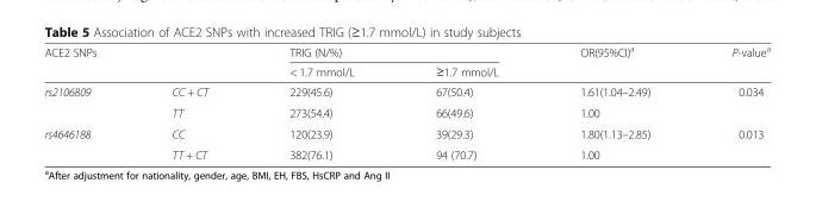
<table><thead><tr><td rowspan="2" colspan="2">ACE2 SNPs</td><td colspan="2">TRIG (N/%)</td><td rowspan="3">OR(95%CI)<sup>a</sup> 1.61(1.04–2.49)</td><td rowspan="3">P-value<sup>a</sup> 0.034</td></tr><tr><td rowspan="2">&lt; 1.7 mmol/L 229(45.6)</td><td rowspan="2">≥1.7 mmol/L 67(50.4)</td></tr><tr><td>rs2106809</td><td>CC + CT</td></tr></thead><tbody><tr><td></td><td>TT</td><td>273(54.4)</td><td>66(49.6)</td><td>1.00</td><td></td></tr><tr><td rowspan="2">rs4646188</td><td>CC</td><td>120(23.9)</td><td>39(29.3)</td><td>1.80(1.13–2.85)</td><td>0.013</td></tr><tr><td>TT + CT</td><td>382(76.1)</td><td>94 (70.7)</td><td>1.00</td><td></td></tr></tbody></table>